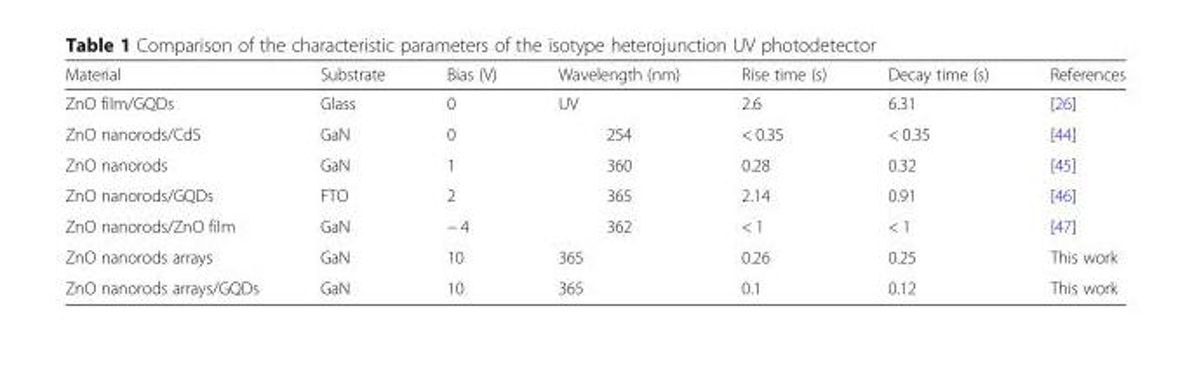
<table><thead><tr><td>Material</td><td>Substrate</td><td>Bias (V)</td><td>Wavelength (nm)</td><td>Rise time (s)</td><td>Decay time (s)</td><td>References</td></tr></thead><tbody><tr><td>ZnO film/GQDs</td><td>Glass</td><td>0</td><td>UV</td><td>2.6</td><td>6.31</td><td>[26]</td></tr><tr><td>ZnO nanorods/CdS</td><td>GaN</td><td>0</td><td>254</td><td>&lt; 0.35</td><td>&lt; 0.35</td><td>[44]</td></tr><tr><td>ZnO nanorods</td><td>GaN</td><td>1</td><td>360</td><td>0.28</td><td>0.32</td><td>[45]</td></tr><tr><td>ZnO nanorods/GQDs</td><td>FTO</td><td>2</td><td>365</td><td>2.14</td><td>0.91</td><td>[46]</td></tr><tr><td>ZnO nanorods/ZnO film</td><td>GaN</td><td>− 4</td><td>362</td><td>&lt; 1</td><td>&lt; 1</td><td>[47]</td></tr><tr><td>ZnO nanorods arrays</td><td>GaN</td><td>10</td><td>365</td><td>0.26</td><td>0.25</td><td>This work</td></tr><tr><td>ZnO nanorods arrays/GQDs</td><td>GaN</td><td>10</td><td>365</td><td>0.1</td><td>0.12</td><td>This work</td></tr></tbody></table>